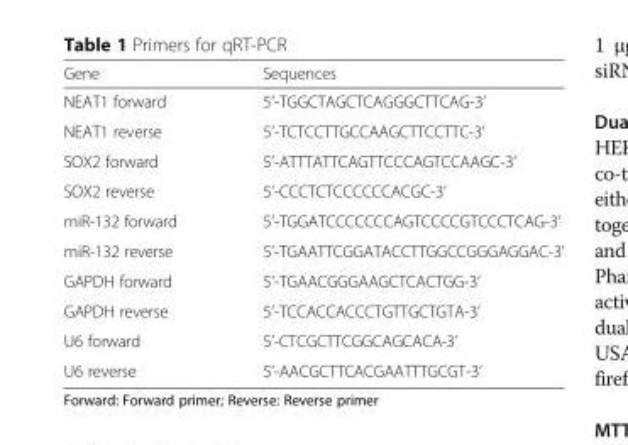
<table><thead><tr><td>Gene</td><td>Sequences</td></tr></thead><tbody><tr><td>NEAT1 forward</td><td>5’-TGGCTAGCTCAGGGCTTCAG-3’</td></tr><tr><td>NEAT1 reverse</td><td>5’-TCTCCTTGCCAAGCTTCCTTC-3’</td></tr><tr><td>SOX2 forward</td><td>5’-ATTTATTCAGTTCCCAGTCCAAGC-3’</td></tr><tr><td>SOX2 reverse</td><td>5’-CCCTCTCCCCCCACGC-3’</td></tr><tr><td>miR-132 forward</td><td>5’-TGGATCCCCCCCAGTCCCCGTCCCTCAG-3’</td></tr><tr><td>miR-132 reverse</td><td>5’-TGAATTCGGATACCTTGGCCGGGAGGAC-3’</td></tr><tr><td>GAPDH forward</td><td>5’-TGAACGGGAAGCTCACTGG-3’</td></tr><tr><td>GAPDH reverse</td><td>5’-TCCACCACCCTGTTGCTGTA-3’</td></tr><tr><td>U6 forward</td><td>5’-CTCGCTTCGGCAGCACA-3’</td></tr><tr><td>U6 reverse</td><td>5’-AACGCTTCACGAATTTGCGT-3’</td></tr></tbody></table>